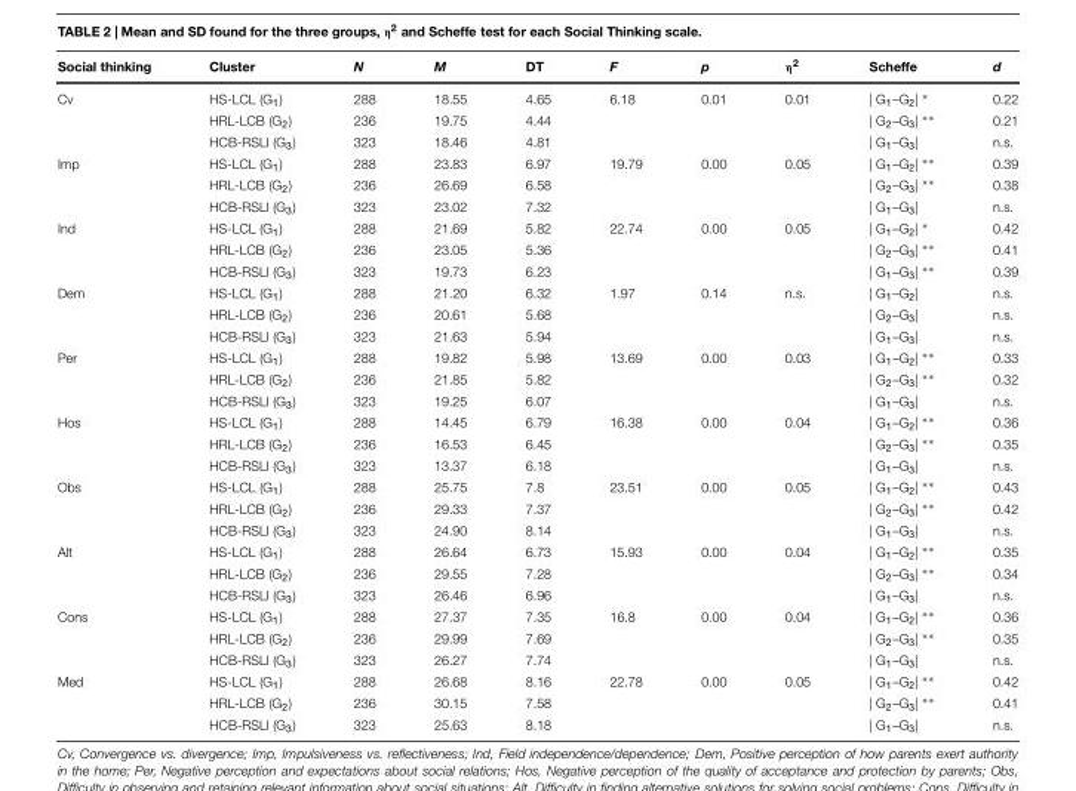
<table><thead><tr><td>Social thinking</td><td>Cluster</td><td>N</td><td>M</td><td>DT</td><td>F</td><td>p</td><td>η<sup>2</sup></td><td>Scheffe</td><td>d</td></tr></thead><tbody><tr><td rowspan="3">Cv</td><td>HS-LCL (G<sub>1</sub>)</td><td>288</td><td>18.55</td><td>4.65</td><td>6.18</td><td>0.01</td><td>0.01</td><td>| G<sub>1</sub>–G<sub>2</sub>| ∗</td><td>0.22</td></tr><tr><td>HRL-LCB (G<sub>2</sub>)</td><td>236</td><td>19.75</td><td>4.44</td><td></td><td></td><td></td><td>| G<sub>2</sub>–G<sub>3</sub>| ∗∗</td><td>0.21</td></tr><tr><td>HCB-RSLI (G<sub>3</sub>)</td><td>323</td><td>18.46</td><td>4.81</td><td></td><td></td><td></td><td>| G<sub>1</sub>–G<sub>3</sub>|</td><td>n.s.</td></tr><tr><td rowspan="3">Imp</td><td>HS-LCL (G<sub>1</sub>)</td><td>288</td><td>23.83</td><td>6.97</td><td>19.79</td><td>0.00</td><td>0.05</td><td>| G<sub>1</sub>–G<sub>2</sub>| ∗∗</td><td>0.39</td></tr><tr><td>HRL-LCB (G<sub>2</sub>)</td><td>236</td><td>26.69</td><td>6.58</td><td></td><td></td><td></td><td>| G<sub>2</sub>–G<sub>3</sub>| ∗∗</td><td>0.38</td></tr><tr><td>HCB-RSLI (G<sub>3</sub>)</td><td>323</td><td>23.02</td><td>7.32</td><td></td><td></td><td></td><td>| G<sub>1</sub>–G<sub>3</sub>|</td><td>n.s.</td></tr><tr><td rowspan="3">Ind</td><td>HS-LCL (G<sub>1</sub>)</td><td>288</td><td>21.69</td><td>5.82</td><td>22.74</td><td>0.00</td><td>0.05</td><td>| G<sub>1</sub>–G<sub>2</sub>| ∗</td><td>0.42</td></tr><tr><td>HRL-LCB (G<sub>2</sub>)</td><td>236</td><td>23.05</td><td>5.36</td><td></td><td></td><td></td><td>| G<sub>2</sub>–G<sub>3</sub>| ∗∗</td><td>0.41</td></tr><tr><td>HCB-RSLI (G<sub>3</sub>)</td><td>323</td><td>19.73</td><td>6.23</td><td></td><td></td><td></td><td>| G<sub>1</sub>–G<sub>3</sub>| ∗∗</td><td>0.39</td></tr><tr><td rowspan="3">Dem</td><td>HS-LCL (G<sub>1</sub>)</td><td>288</td><td>21.20</td><td>6.32</td><td>1.97</td><td>0.14</td><td>n.s.</td><td>| G<sub>1</sub>–G<sub>2</sub>|</td><td>n.s.</td></tr><tr><td>HRL-LCB (G<sub>2</sub>)</td><td>236</td><td>20.61</td><td>5.68</td><td></td><td></td><td></td><td>| G<sub>2</sub>–G<sub>3</sub>|</td><td>n.s.</td></tr><tr><td>HCB-RSLI (G<sub>3</sub>)</td><td>323</td><td>21.63</td><td>5.94</td><td></td><td></td><td></td><td>| G<sub>1</sub>–G<sub>3</sub>|</td><td>n.s.</td></tr><tr><td rowspan="3">Per</td><td>HS-LCL (G<sub>1</sub>)</td><td>288</td><td>19.82</td><td>5.98</td><td>13.69</td><td>0.00</td><td>0.03</td><td>| G<sub>1</sub>–G<sub>2</sub>| ∗∗</td><td>0.33</td></tr><tr><td>HRL-LCB (G<sub>2</sub>)</td><td>236</td><td>21.85</td><td>5.82</td><td></td><td></td><td></td><td>| G<sub>2</sub>–G<sub>3</sub>| ∗∗</td><td>0.32</td></tr><tr><td>HCB-RSLI (G<sub>3</sub>)</td><td>323</td><td>19.25</td><td>6.07</td><td></td><td></td><td></td><td>| G<sub>1</sub>–G<sub>3</sub>|</td><td>n.s.</td></tr><tr><td rowspan="3">Hos</td><td>HS-LCL (G<sub>1</sub>)</td><td>288</td><td>14.45</td><td>6.79</td><td>16.38</td><td>0.00</td><td>0.04</td><td>| G<sub>1</sub>–G<sub>2</sub>| ∗∗</td><td>0.36</td></tr><tr><td>HRL-LCB (G<sub>2</sub>)</td><td>236</td><td>16.53</td><td>6.45</td><td></td><td></td><td></td><td>| G<sub>2</sub>–G<sub>3</sub>| ∗∗</td><td>0.35</td></tr><tr><td>HCB-RSLI (G<sub>3</sub>)</td><td>323</td><td>13.37</td><td>6.18</td><td></td><td></td><td></td><td>| G<sub>1</sub>–G<sub>3</sub>|</td><td>n.s.</td></tr><tr><td rowspan="3">Obs</td><td>HS-LCL (G<sub>1</sub>)</td><td>288</td><td>25.75</td><td>7.8</td><td>23.51</td><td>0.00</td><td>0.05</td><td>| G<sub>1</sub>–G<sub>2</sub>| ∗∗</td><td>0.43</td></tr><tr><td>HRL-LCB (G<sub>2</sub>)</td><td>236</td><td>29.33</td><td>7.37</td><td></td><td></td><td></td><td>| G<sub>2</sub>–G<sub>3</sub>| ∗∗</td><td>0.42</td></tr><tr><td>HCB-RSLI (G<sub>3</sub>)</td><td>323</td><td>24.90</td><td>8.14</td><td></td><td></td><td></td><td>| G<sub>1</sub>–G<sub>3</sub>|</td><td>n.s.</td></tr><tr><td rowspan="3">Alt</td><td>HS-LCL (G<sub>1</sub>)</td><td>288</td><td>26.64</td><td>6.73</td><td>15.93</td><td>0.00</td><td>0.04</td><td>| G<sub>1</sub>–G<sub>2</sub>| ∗∗</td><td>0.35</td></tr><tr><td>HRL-LCB (G<sub>2</sub>)</td><td>236</td><td>29.55</td><td>7.28</td><td></td><td></td><td></td><td>| G<sub>2</sub>–G<sub>3</sub>| ∗∗</td><td>0.34</td></tr><tr><td>HCB-RSLI (G<sub>3</sub>)</td><td>323</td><td>26.46</td><td>6.96</td><td></td><td></td><td></td><td>| G<sub>1</sub>–G<sub>3</sub>|</td><td>n.s.</td></tr><tr><td rowspan="3">Cons</td><td>HS-LCL (G<sub>1</sub>)</td><td>288</td><td>27.37</td><td>7.35</td><td>16.8</td><td>0.00</td><td>0.04</td><td>| G<sub>1</sub>–G<sub>2</sub>| ∗∗</td><td>0.36</td></tr><tr><td>HRL-LCB (G<sub>2</sub>)</td><td>236</td><td>29.99</td><td>7.69</td><td></td><td></td><td></td><td>| G<sub>2</sub>–G<sub>3</sub>| ∗∗</td><td>0.35</td></tr><tr><td>HCB-RSLI (G<sub>3</sub>)</td><td>323</td><td>26.27</td><td>7.74</td><td></td><td></td><td></td><td>| G<sub>1</sub>–G<sub>3</sub>|</td><td>n.s.</td></tr><tr><td rowspan="3">Med</td><td>HS-LCL (G<sub>1</sub>)</td><td>288</td><td>26.68</td><td>8.16</td><td>22.78</td><td>0.00</td><td>0.05</td><td>| G<sub>1</sub>–G<sub>2</sub>| ∗∗</td><td>0.42</td></tr><tr><td>HRL-LCB (G<sub>2</sub>)</td><td>236</td><td>30.15</td><td>7.58</td><td></td><td></td><td></td><td>| G<sub>2</sub>–G<sub>3</sub>| ∗∗</td><td>0.41</td></tr><tr><td>HCB-RSLI (G<sub>3</sub>)</td><td>323</td><td>25.63</td><td>8.18</td><td></td><td></td><td></td><td>| G<sub>1</sub>–G<sub>3</sub>|</td><td>n.s.</td></tr></tbody></table>